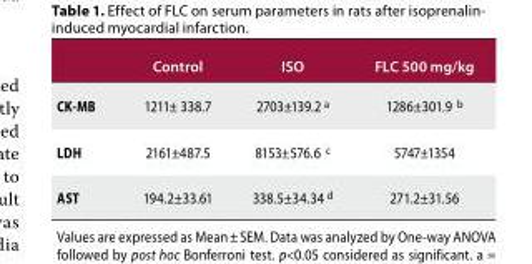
<table><thead><tr><td></td><td>Control</td><td>ISO</td><td>FLC 500 mg/kg</td></tr></thead><tbody><tr><td>CK-MB</td><td>1211± 338.7</td><td>2703±139.2 <sup>a</sup></td><td>1286±301.9 <sup>b</sup></td></tr><tr><td>LDH</td><td>2161±487.5</td><td>8153±576.6 <sup>c</sup></td><td>5747±1354</td></tr><tr><td>AST</td><td>194.2±33.61</td><td>338.5±34.34 <sup>d</sup></td><td>271.2±31.56</td></tr></tbody></table>